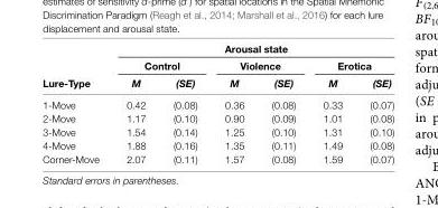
<table><thead><tr><td rowspan="3">Lure-Type</td><td colspan="6">Arousal state</td></tr><tr><td colspan="2">Control</td><td colspan="2">Violence</td><td colspan="2">Erotica</td></tr><tr><td>M</td><td>(SE)</td><td>M</td><td>(SE)</td><td>M</td><td>(SE)</td></tr></thead><tbody><tr><td>1-Move</td><td>0.42</td><td>(0.08)</td><td>0.36</td><td>(0.08)</td><td>0.33</td><td>(0.07)</td></tr><tr><td>2-Move</td><td>1.17</td><td>(0.10)</td><td>0.90</td><td>(0.09)</td><td>1.01</td><td>(0.08)</td></tr><tr><td>3-Move</td><td>1.54</td><td>(0.14)</td><td>1.25</td><td>(0.10)</td><td>1.31</td><td>(0.10)</td></tr><tr><td>4-Move</td><td>1.88</td><td>(0.16)</td><td>1.35</td><td>(0.11)</td><td>1.49</td><td>(0.08)</td></tr><tr><td>Corner-Move</td><td>2.07</td><td>(0.11)</td><td>1.57</td><td>(0.08)</td><td>1.59</td><td>(0.07)</td></tr></tbody></table>